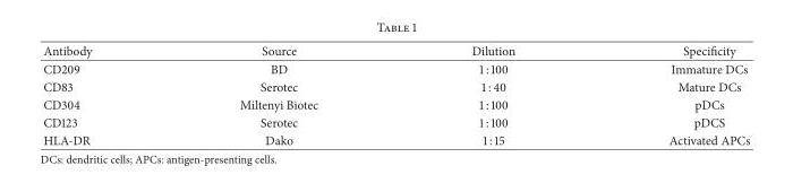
<table><tbody><tr><td>Antibody</td><td>Source</td><td>Dilution</td><td>Specificity</td></tr><tr><td>CD209</td><td>BD</td><td>1 : 100</td><td>Immature DCs</td></tr><tr><td>CD83</td><td>Serotec</td><td>1 : 40</td><td>Mature DCs</td></tr><tr><td>CD304</td><td>Miltenyi Biotec</td><td>1 : 100</td><td>pDCs</td></tr><tr><td>CD123</td><td>Serotec</td><td>1 : 100</td><td>pDCS</td></tr><tr><td>HLA-DR</td><td>Dako</td><td>1 : 15</td><td>Activated APCs</td></tr></tbody></table>